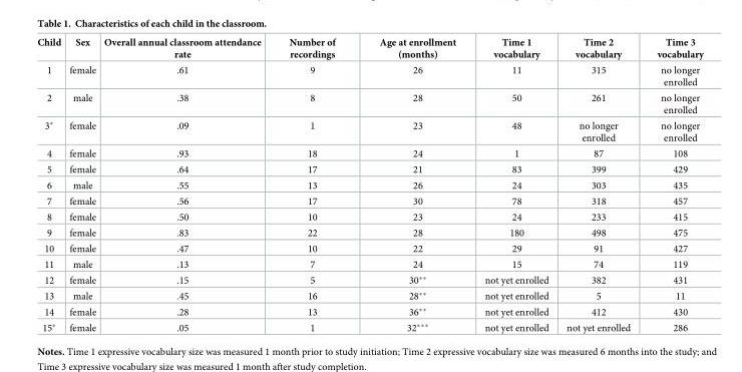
<table><thead><tr><td>Child</td><td>Sex</td><td>Overall annual classroom attendance rate</td><td>Number of recordings</td><td>Age at enrollment (months)</td><td>Time 1 vocabulary</td><td>Time 2 vocabulary</td><td>Time 3 vocabulary</td></tr></thead><tbody><tr><td>1</td><td>female</td><td>.61</td><td>9</td><td>26</td><td>11</td><td>315</td><td>no longer enrolled</td></tr><tr><td>2</td><td>male</td><td>.38</td><td>8</td><td>28</td><td>50</td><td>261</td><td>no longer enrolled</td></tr><tr><td>3*</td><td>female</td><td>.09</td><td>1</td><td>23</td><td>48</td><td>no longer enrolled</td><td>no longer enrolled</td></tr><tr><td>4</td><td>female</td><td>.93</td><td>18</td><td>24</td><td>1</td><td>87</td><td>108</td></tr><tr><td>5</td><td>female</td><td>.64</td><td>17</td><td>21</td><td>83</td><td>399</td><td>429</td></tr><tr><td>6</td><td>male</td><td>.55</td><td>13</td><td>26</td><td>24</td><td>303</td><td>435</td></tr><tr><td>7</td><td>female</td><td>.56</td><td>17</td><td>30</td><td>78</td><td>318</td><td>457</td></tr><tr><td>8</td><td>female</td><td>.50</td><td>10</td><td>23</td><td>24</td><td>233</td><td>415</td></tr><tr><td>9</td><td>female</td><td>.83</td><td>22</td><td>28</td><td>180</td><td>498</td><td>475</td></tr><tr><td>10</td><td>female</td><td>.47</td><td>10</td><td>22</td><td>29</td><td>91</td><td>427</td></tr><tr><td>11</td><td>male</td><td>.13</td><td>7</td><td>24</td><td>15</td><td>74</td><td>119</td></tr><tr><td>12</td><td>female</td><td>.15</td><td>5</td><td>30**</td><td>not yet enrolled</td><td>382</td><td>431</td></tr><tr><td>13</td><td>male</td><td>.45</td><td>16</td><td>28**</td><td>not yet enrolled</td><td>5</td><td>11</td></tr><tr><td>14</td><td>female</td><td>.28</td><td>13</td><td>36**</td><td>not yet enrolled</td><td>412</td><td>430</td></tr><tr><td>15*</td><td>female</td><td>.05</td><td>1</td><td>32***</td><td>not yet enrolled</td><td>not yet enrolled</td><td>286</td></tr></tbody></table>